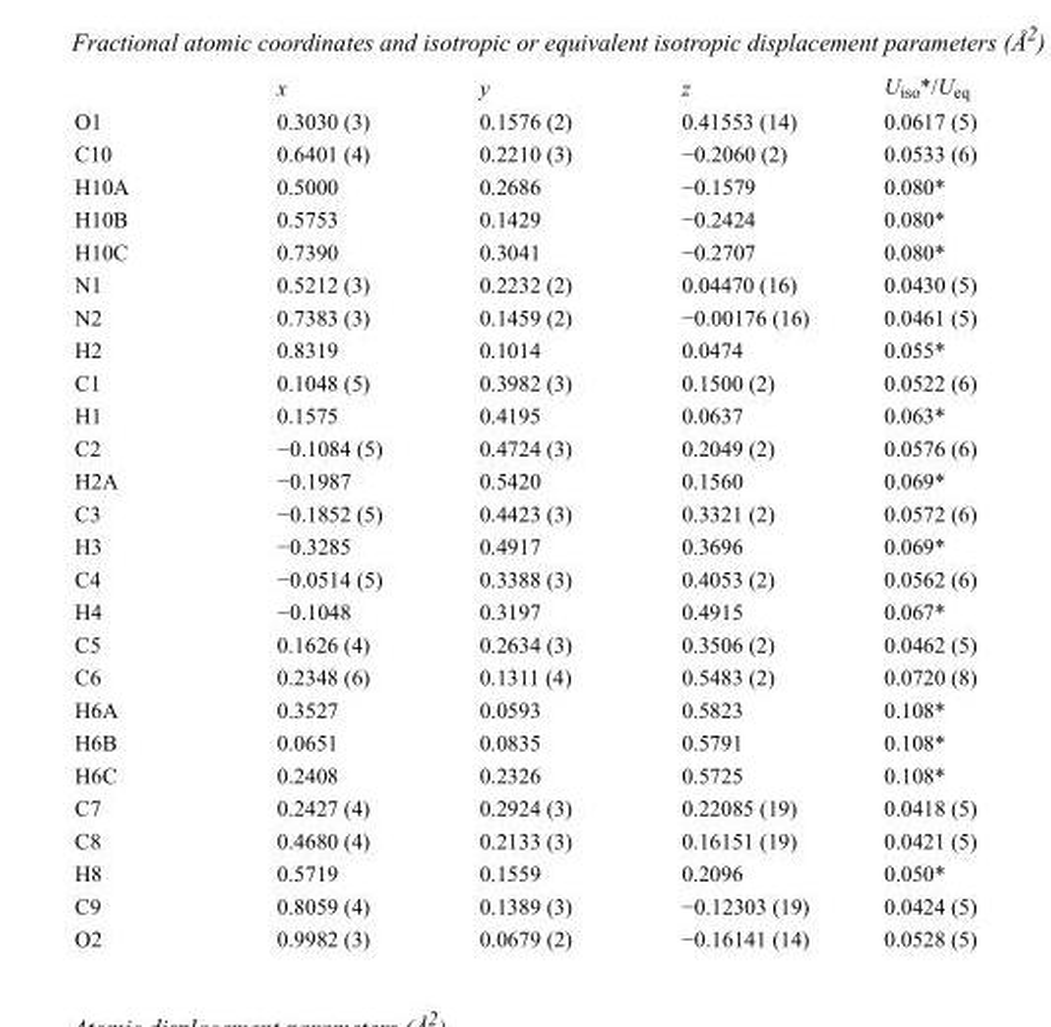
<table><thead><tr><td></td><td>x</td><td>y</td><td>z</td><td>U<sub>iso</sub>*/U<sub>eq</sub></td></tr></thead><tbody><tr><td>O1</td><td>0.3030 (3)</td><td>0.1576 (2)</td><td>0.41553 (14)</td><td>0.0617 (5)</td></tr><tr><td>C10</td><td>0.6401 (4)</td><td>0.2210 (3)</td><td>−0.2060 (2)</td><td>0.0533 (6)</td></tr><tr><td>H10A</td><td>0.5000</td><td>0.2686</td><td>−0.1579</td><td>0.080*</td></tr><tr><td>H10B</td><td>0.5753</td><td>0.1429</td><td>−0.2424</td><td>0.080*</td></tr><tr><td>H10C</td><td>0.7390</td><td>0.3041</td><td>−0.2707</td><td>0.080*</td></tr><tr><td>N1</td><td>0.5212 (3)</td><td>0.2232 (2)</td><td>0.04470 (16)</td><td>0.0430 (5)</td></tr><tr><td>N2</td><td>0.7383 (3)</td><td>0.1459 (2)</td><td>−0.00176 (16)</td><td>0.0461 (5)</td></tr><tr><td>H2</td><td>0.8319</td><td>0.1014</td><td>0.0474</td><td>0.055*</td></tr><tr><td>C1</td><td>0.1048 (5)</td><td>0.3982 (3)</td><td>0.1500 (2)</td><td>0.0522 (6)</td></tr><tr><td>H1</td><td>0.1575</td><td>0.4195</td><td>0.0637</td><td>0.063*</td></tr><tr><td>C2</td><td>−0.1084 (5)</td><td>0.4724 (3)</td><td>0.2049 (2)</td><td>0.0576 (6)</td></tr><tr><td>H2A</td><td>−0.1987</td><td>0.5420</td><td>0.1560</td><td>0.069*</td></tr><tr><td>C3</td><td>−0.1852 (5)</td><td>0.4423 (3)</td><td>0.3321 (2)</td><td>0.0572 (6)</td></tr><tr><td>H3</td><td>−0.3285</td><td>0.4917</td><td>0.3696</td><td>0.069*</td></tr><tr><td>C4</td><td>−0.0514 (5)</td><td>0.3388 (3)</td><td>0.4053 (2)</td><td>0.0562 (6)</td></tr><tr><td>H4</td><td>−0.1048</td><td>0.3197</td><td>0.4915</td><td>0.067*</td></tr><tr><td>C5</td><td>0.1626 (4)</td><td>0.2634 (3)</td><td>0.3506 (2)</td><td>0.0462 (5)</td></tr><tr><td>C6</td><td>0.2348 (6)</td><td>0.1311 (4)</td><td>0.5483 (2)</td><td>0.0720 (8)</td></tr><tr><td>H6A</td><td>0.3527</td><td>0.0593</td><td>0.5823</td><td>0.108*</td></tr><tr><td>H6B</td><td>0.0651</td><td>0.0835</td><td>0.5791</td><td>0.108*</td></tr><tr><td>H6C</td><td>0.2408</td><td>0.2326</td><td>0.5725</td><td>0.108*</td></tr><tr><td>C7</td><td>0.2427 (4)</td><td>0.2924 (3)</td><td>0.22085 (19)</td><td>0.0418 (5)</td></tr><tr><td>C8</td><td>0.4680 (4)</td><td>0.2133 (3)</td><td>0.16151 (19)</td><td>0.0421 (5)</td></tr><tr><td>H8</td><td>0.5719</td><td>0.1559</td><td>0.2096</td><td>0.050*</td></tr><tr><td>C9</td><td>0.8059 (4)</td><td>0.1389 (3)</td><td>−0.12303 (19)</td><td>0.0424 (5)</td></tr><tr><td>O2</td><td>0.9982 (3)</td><td>0.0679 (2)</td><td>−0.16141 (14)</td><td>0.0528 (5)</td></tr></tbody></table>